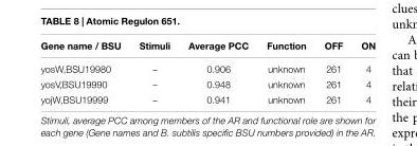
<table><thead><tr><td>Gene name / BSU</td><td>Stimuli</td><td>Average PCC</td><td>Function</td><td>OFF</td><td>ON</td></tr></thead><tbody><tr><td>yosW,BSU19980</td><td>–</td><td>0.906</td><td>unknown</td><td>261</td><td>4</td></tr><tr><td>yosV,BSU19990</td><td>–</td><td>0.948</td><td>unknown</td><td>261</td><td>4</td></tr><tr><td>yojW,BSU19999</td><td>–</td><td>0.941</td><td>unknown</td><td>261</td><td>4</td></tr></tbody></table>